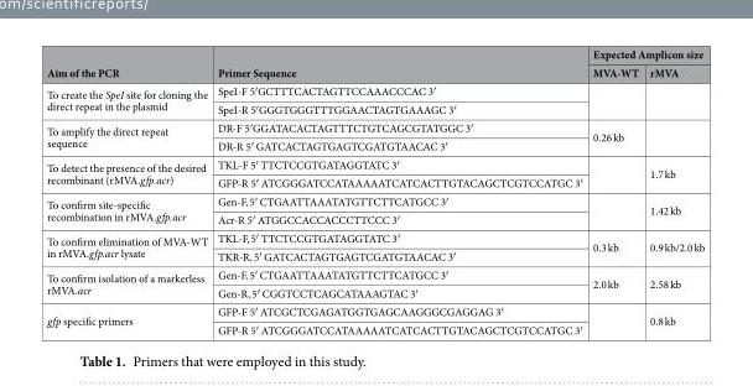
<table><thead><tr><td rowspan="2">Aim of the PCR</td><td rowspan="2">Primer Sequence</td><td colspan="2">Expected Amplicon size</td></tr><tr><td>MVA-WT</td><td>rMVA</td></tr></thead><tbody><tr><td rowspan="2">To create the SpeI site for cloning the direct repeat in the plasmid</td><td>SpeI-F 5′GCTTTCACTAGTTCCAAACCCAC 3′</td><td rowspan="2"></td><td rowspan="2"></td></tr><tr><td>SpeI-R 5′GGGTGGGTTTGGAACTAGTGAAAGC 3′</td></tr><tr><td rowspan="2">To amplify the direct repeat sequence</td><td>DR-F 5′GGATACACTAGTTTCTGTCAGCGTATGGC 3′</td><td rowspan="2">0.26 kb</td><td rowspan="2"></td></tr><tr><td>DR-R 5′ GATCACTAGTGAGTCGATGTAACAC 3′</td></tr><tr><td rowspan="2">To detect the presence of the desired recombinant (rMVA.gfp.acr)</td><td>TKL-F 5′ TTCTCCGTGATAGGTATC 3′</td><td rowspan="2"></td><td rowspan="2">1.7 kb</td></tr><tr><td>GFP-R 5′ ATCGGGATCCATAAAAATCATCACTTGTACAGCTCGTCCATGC 3′</td></tr><tr><td rowspan="2">To confirm site-specific recombination in rMVA.gfp.acr</td><td>Gen-F, 5′ CTGAATTAAATATGTTCTTCATGCC 3′</td><td rowspan="2"></td><td rowspan="2">1.42 kb</td></tr><tr><td>Acr-R 5′ ATGGCCACCACCCTTCCC 3′</td></tr><tr><td rowspan="2">To confirm elimination of MVA-WT in rMVA.gfp.acr lysate</td><td>TKL-F, 5′ TTCTCCGTGATAGGTATC 3′</td><td rowspan="2">0.3 kb</td><td rowspan="2">0.9 kb/2.0 kb</td></tr><tr><td>TKR-R, 5′ GATCACTAGTGAGTCGATGTAACAC 3′</td></tr><tr><td rowspan="2">To confirm isolation of a markerless rMVA.acr</td><td>Gen-F, 5′ CTGAATTAAATATGTTCTTCATGCC 3′</td><td rowspan="2">2.0 kb</td><td rowspan="2">2.58 kb</td></tr><tr><td>Gen-R, 5′ CGGTCCTCAGCATAAAGTAC 3′</td></tr><tr><td rowspan="2">gfp specific primers</td><td>GFP-F 5′ ATCGCTCGAGATGGTGAGCAAGGGCGAGGAG 3′</td><td rowspan="2"></td><td rowspan="2">0.8 kb</td></tr><tr><td>GFP-R 5′ ATCGGGATCCATAAAAATCATCACTTGTACAGCTCGTCCATGC 3′</td></tr></tbody></table>